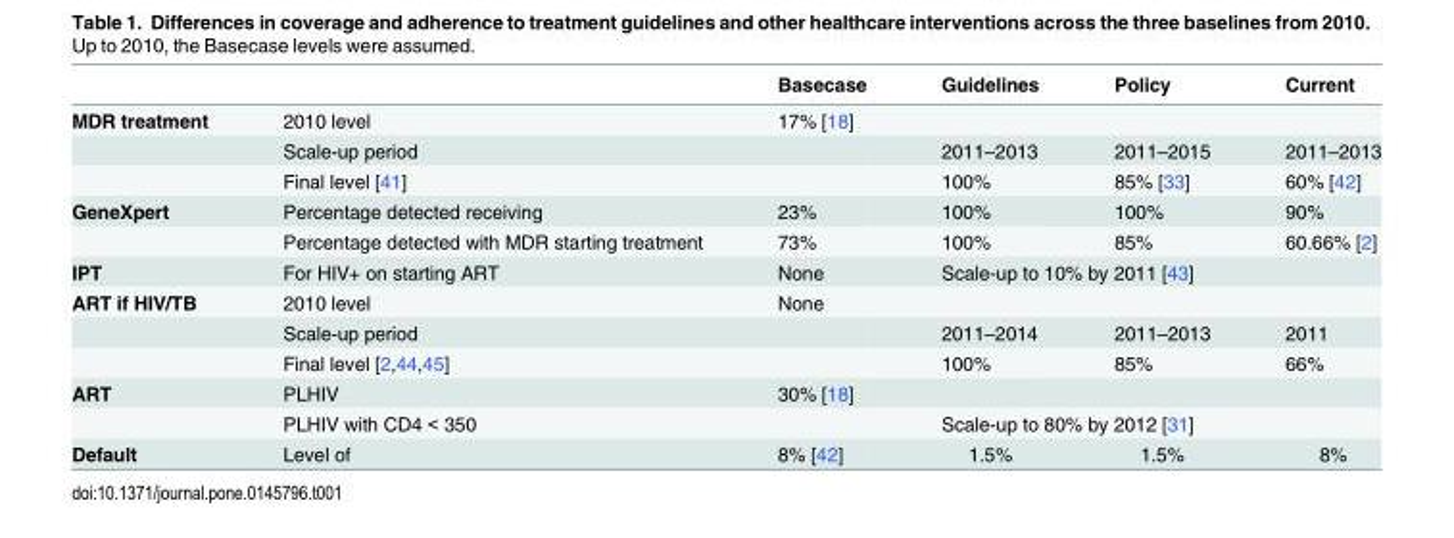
<table><thead><tr><td></td><td></td><td>Basecase</td><td>Guidelines</td><td>Policy</td><td>Current</td></tr></thead><tbody><tr><td rowspan="3">MDR treatment</td><td>2010 level</td><td>17% [18]</td><td colspan="3"></td></tr><tr><td>Scale-up period</td><td></td><td>2011–2013</td><td>2011–2015</td><td>2011–2013</td></tr><tr><td>Final level [41]</td><td></td><td>100%</td><td>85% [33]</td><td>60% [42]</td></tr><tr><td rowspan="2">GeneXpert</td><td>Percentage detected receiving</td><td>23%</td><td>100%</td><td>100%</td><td>90%</td></tr><tr><td>Percentage detected with MDR starting treatment</td><td>73%</td><td>100%</td><td>85%</td><td>60.66% [2]</td></tr><tr><td>IPT</td><td>For HIV+ on starting ART</td><td>None</td><td colspan="3">Scale-up to 10% by 2011 [43]</td></tr><tr><td rowspan="3">ART if HIV/TB</td><td>2010 level</td><td>None</td><td colspan="3"></td></tr><tr><td>Scale-up period</td><td></td><td>2011–2014</td><td>2011–2013</td><td>2011</td></tr><tr><td>Final level [2,44,45]</td><td></td><td>100%</td><td>85%</td><td>66%</td></tr><tr><td rowspan="2">ART</td><td>PLHIV</td><td>30% [18]</td><td></td><td></td><td></td></tr><tr><td>PLHIV with CD4 &lt; 350</td><td></td><td colspan="3">Scale-up to 80% by 2012 [31]</td></tr><tr><td>Default</td><td>Level of</td><td>8% [42]</td><td>1.5%</td><td>1.5%</td><td>8%</td></tr></tbody></table>